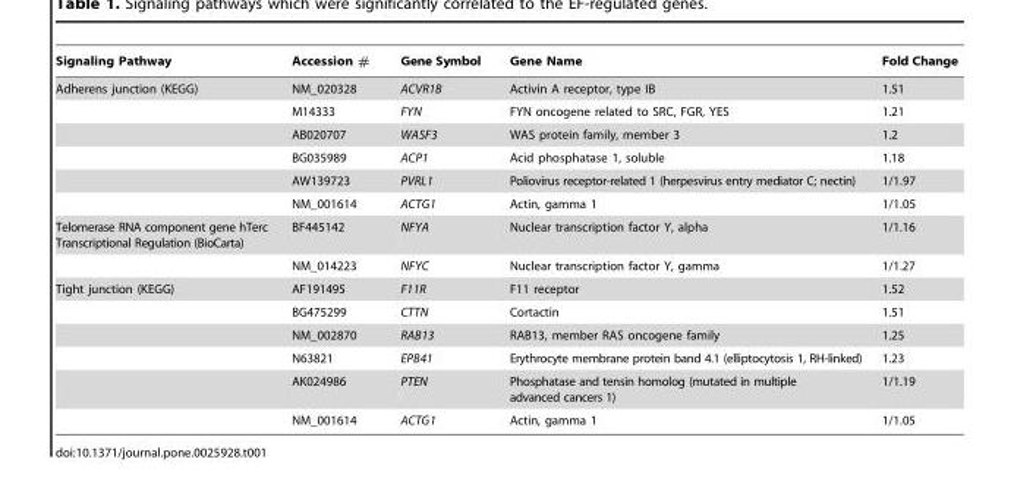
<table><thead><tr><td>Signaling Pathway</td><td>Accession #</td><td>Gene Symbol</td><td>Gene Name</td><td>Fold Change</td></tr></thead><tbody><tr><td rowspan="6">Adherens junction (KEGG)</td><td>NM_020328</td><td>ACVR1B</td><td>Activin A receptor, type IB</td><td>1.51</td></tr><tr><td>M14333</td><td>FYN</td><td>FYN oncogene related to SRC, FGR, YES</td><td>1.21</td></tr><tr><td>AB020707</td><td>WASF3</td><td>WAS protein family, member 3</td><td>1.2</td></tr><tr><td>BG035989</td><td>ACP1</td><td>Acid phosphatase 1, soluble</td><td>1.18</td></tr><tr><td>AW139723</td><td>PVRL1</td><td>Poliovirus receptor-related 1 (herpesvirus entry mediator C; nectin)</td><td>1/1.97</td></tr><tr><td>NM_001614</td><td>ACTG1</td><td>Actin, gamma 1</td><td>1/1.05</td></tr><tr><td rowspan="2">Telomerase RNA component gene hTerc Transcriptional Regulation (BioCarta)</td><td>BF445142</td><td>NFYA</td><td>Nuclear transcription factor Y, alpha</td><td>1/1.16</td></tr><tr><td>NM_014223</td><td>NFYC</td><td>Nuclear transcription factor Y, gamma</td><td>1/1.27</td></tr><tr><td rowspan="6">Tight junction (KEGG)</td><td>AF191495</td><td>F11R</td><td>F11 receptor</td><td>1.52</td></tr><tr><td>BG475299</td><td>CTTN</td><td>Cortactin</td><td>1.51</td></tr><tr><td>NM_002870</td><td>RAB13</td><td>RAB13, member RAS oncogene family</td><td>1.25</td></tr><tr><td>N63821</td><td>EPB41</td><td>Erythrocyte membrane protein band 4.1 (elliptocytosis 1, RH-linked)</td><td>1.23</td></tr><tr><td>AK024986</td><td>PTEN</td><td>Phosphatase and tensin homolog (mutated in multiple advanced cancers 1)</td><td>1/1.19</td></tr><tr><td>NM_001614</td><td>ACTG1</td><td>Actin, gamma 1</td><td>1/1.05</td></tr></tbody></table>